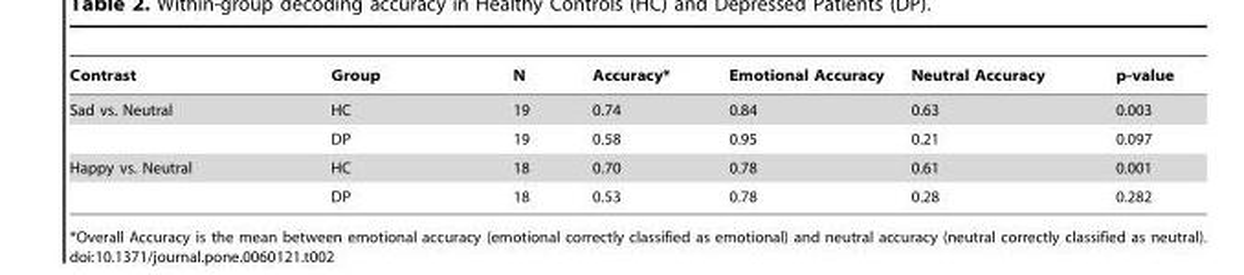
<table><thead><tr><td>Contrast</td><td>Group</td><td>N</td><td>Accuracy*</td><td>Emotional Accuracy</td><td>Neutral Accuracy</td><td>p-value</td></tr></thead><tbody><tr><td rowspan="2">Sad vs. Neutral</td><td>HC</td><td>19</td><td>0.74</td><td>0.84</td><td>0.63</td><td>0.003</td></tr><tr><td>DP</td><td>19</td><td>0.58</td><td>0.95</td><td>0.21</td><td>0.097</td></tr><tr><td rowspan="2">Happy vs. Neutral</td><td>HC</td><td>18</td><td>0.70</td><td>0.78</td><td>0.61</td><td>0.001</td></tr><tr><td>DP</td><td>18</td><td>0.53</td><td>0.78</td><td>0.28</td><td>0.282</td></tr></tbody></table>